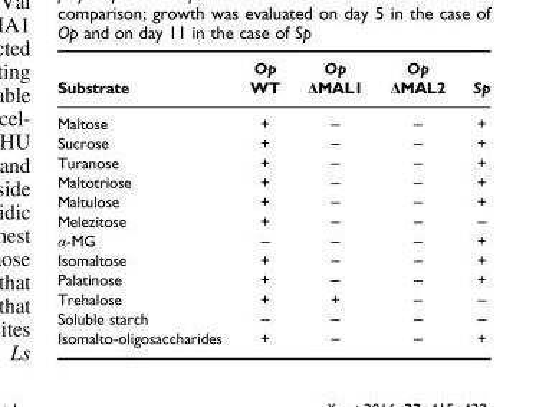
<table><thead><tr><td>Substrate</td><td>Op WT</td><td>Op ΔMAL1</td><td>Op ΔMAL2</td><td>Sp</td></tr></thead><tbody><tr><td>Maltose</td><td>+</td><td>–</td><td>–</td><td>+</td></tr><tr><td>Sucrose</td><td>+</td><td>–</td><td>–</td><td>+</td></tr><tr><td>Turanose</td><td>+</td><td>–</td><td>–</td><td>+</td></tr><tr><td>Maltotriose</td><td>+</td><td>–</td><td>–</td><td>+</td></tr><tr><td>Maltulose</td><td>+</td><td>–</td><td>–</td><td>+</td></tr><tr><td>Melezitose</td><td>+</td><td>–</td><td>–</td><td>–</td></tr><tr><td>α-MG</td><td>–</td><td>–</td><td>–</td><td>+</td></tr><tr><td>Isomaltose</td><td>+</td><td>–</td><td>–</td><td>+</td></tr><tr><td>Palatinose</td><td>+</td><td>–</td><td>–</td><td>+</td></tr><tr><td>Trehalose</td><td>+</td><td>+</td><td>–</td><td>–</td></tr><tr><td>Soluble starch</td><td>–</td><td>–</td><td>–</td><td>–</td></tr><tr><td>Isomalto-oligosaccharides</td><td>+</td><td>–</td><td>–</td><td>+</td></tr></tbody></table>